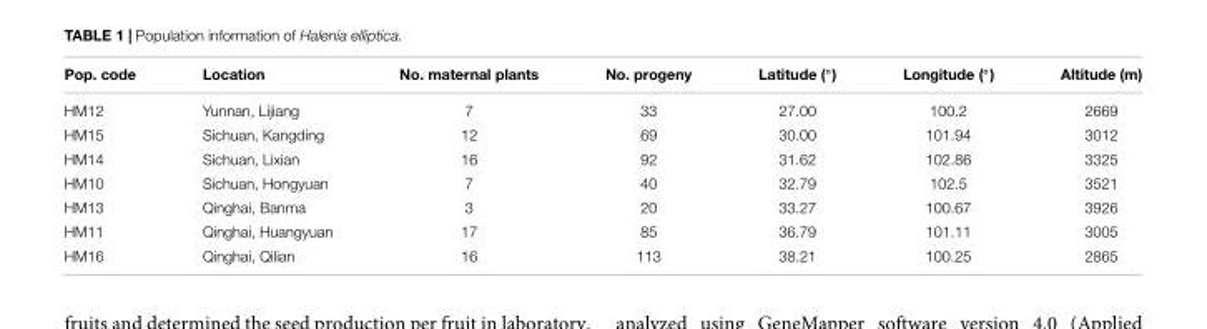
<table><thead><tr><td>Pop. code</td><td>Location</td><td>No. maternal plants</td><td>No. progeny</td><td>Latitude (◦)</td><td>Longitude (◦)</td><td>Altitude (m)</td></tr></thead><tbody><tr><td>HM12</td><td>Yunnan, Lijiang</td><td>7</td><td>33</td><td>27.00</td><td>100.2</td><td>2669</td></tr><tr><td>HM15</td><td>Sichuan, Kangding</td><td>12</td><td>69</td><td>30.00</td><td>101.94</td><td>3012</td></tr><tr><td>HM14</td><td>Sichuan, Lixian</td><td>16</td><td>92</td><td>31.62</td><td>102.86</td><td>3325</td></tr><tr><td>HM10</td><td>Sichuan, Hongyuan</td><td>7</td><td>40</td><td>32.79</td><td>102.5</td><td>3521</td></tr><tr><td>HM13</td><td>Qinghai, Banma</td><td>3</td><td>20</td><td>33.27</td><td>100.67</td><td>3926</td></tr><tr><td>HM11</td><td>Qinghai, Huangyuan</td><td>17</td><td>85</td><td>36.79</td><td>101.11</td><td>3005</td></tr><tr><td>HM16</td><td>Qinghai, Qilian</td><td>16</td><td>113</td><td>38.21</td><td>100.25</td><td>2865</td></tr></tbody></table>